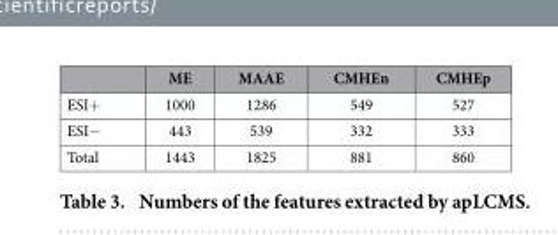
<table><thead><tr><td></td><td>ME</td><td>MAAE</td><td>CMHEn</td><td>CMHEp</td></tr></thead><tbody><tr><td>ESI+</td><td>1000</td><td>1286</td><td>549</td><td>527</td></tr><tr><td>ESI−</td><td>443</td><td>539</td><td>332</td><td>333</td></tr><tr><td>Total</td><td>1443</td><td>1825</td><td>881</td><td>860</td></tr></tbody></table>